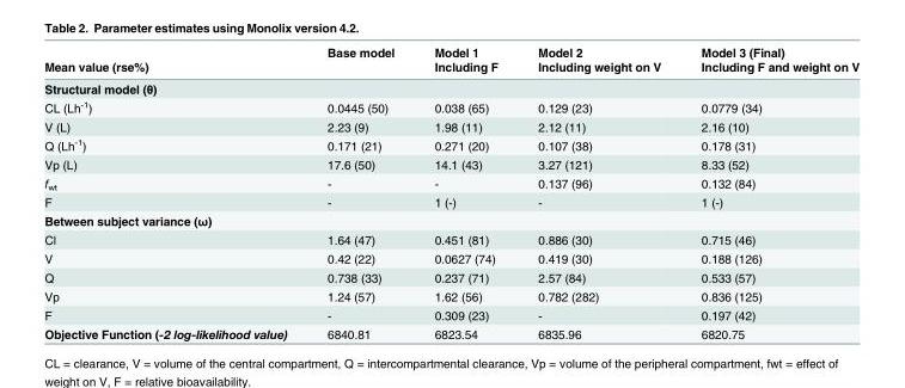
<table><thead><tr><td rowspan="2">Mean value (rse%)</td><td rowspan="2">Base model</td><td rowspan="2">Model 1 Including F</td><td rowspan="2">Model 2 Including weight on V</td><td rowspan="2">Model 3 (Final) Including F and weight on V</td></tr><tr></tr></thead><tbody><tr><td colspan="5">Structural model (θ)</td></tr><tr><td>CL (Lh<sup>-1</sup>)</td><td>0.0445 (50)</td><td>0.038 (65)</td><td>0.129 (23)</td><td>0.0779 (34)</td></tr><tr><td>V (L)</td><td>2.23 (9)</td><td>1.98 (11)</td><td>2.12 (11)</td><td>2.16 (10)</td></tr><tr><td>Q (Lh<sup>-1</sup>)</td><td>0.171 (21)</td><td>0.271 (20)</td><td>0.107 (38)</td><td>0.178 (31)</td></tr><tr><td>Vp (L)</td><td>17.6 (50)</td><td>14.1 (43)</td><td>3.27 (121)</td><td>8.33 (52)</td></tr><tr><td>f<sub>wt</sub></td><td>-</td><td>-</td><td>0.137 (96)</td><td>0.132 (84)</td></tr><tr><td>F</td><td>-</td><td>1 (-)</td><td>-</td><td>1 (-)</td></tr><tr><td colspan="5">Between subject variance (ω)</td></tr><tr><td>Cl</td><td>1.64 (47)</td><td>0.451 (81)</td><td>0.886 (30)</td><td>0.715 (46)</td></tr><tr><td>V</td><td>0.42 (22)</td><td>0.0627 (74)</td><td>0.419 (30)</td><td>0.188 (126)</td></tr><tr><td>Q</td><td>0.738 (33)</td><td>0.237 (71)</td><td>2.57 (84)</td><td>0.533 (57)</td></tr><tr><td>Vp</td><td>1.24 (57)</td><td>1.62 (56)</td><td>0.782 (282)</td><td>0.836 (125)</td></tr><tr><td>F</td><td>-</td><td>0.309 (23)</td><td>-</td><td>0.197 (42)</td></tr><tr><td>Objective Function (-2 log-likelihood value)</td><td>6840.81</td><td>6823.54</td><td>6835.96</td><td>6820.75</td></tr></tbody></table>